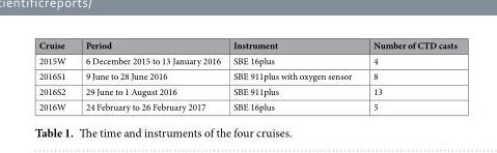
<table><thead><tr><td>Cruise</td><td>Period</td><td>Instrument</td><td>Number of CTD casts</td></tr></thead><tbody><tr><td>2015W</td><td>6 December 2015 to 13 January 2016</td><td>SBE 16plus</td><td>4</td></tr><tr><td>2016S1</td><td>9 June to 28 June 2016</td><td>SBE 911plus with oxygen sensor</td><td>8</td></tr><tr><td>2016S2</td><td>29 June to 1 August 2016</td><td>SBE 911plus</td><td>13</td></tr><tr><td>2016W</td><td>24 February to 26 February 2017</td><td>SBE 16plus</td><td>5</td></tr></tbody></table>